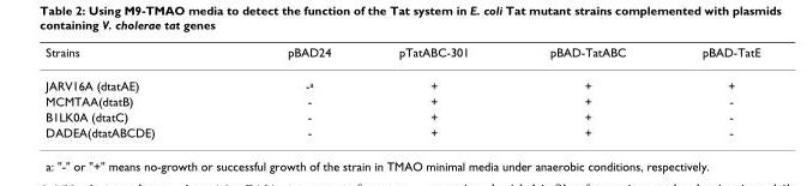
<table><thead><tr><td>Strains</td><td>pBAD24</td><td>pTatABC-301</td><td>pBAD-TatABC</td><td>pBAD-TatE</td></tr></thead><tbody><tr><td>JARV16A (dtatAE)</td><td>-<sup>a</sup></td><td>+</td><td>+</td><td>+</td></tr><tr><td>MCMTAA(dtatB)</td><td>-</td><td>+</td><td>+</td><td>-</td></tr><tr><td>B1LK0A (dtatC)</td><td>-</td><td>+</td><td>+</td><td>-</td></tr><tr><td>DADEA(dtatABCDE)</td><td>-</td><td>+</td><td>+</td><td>-</td></tr></tbody></table>